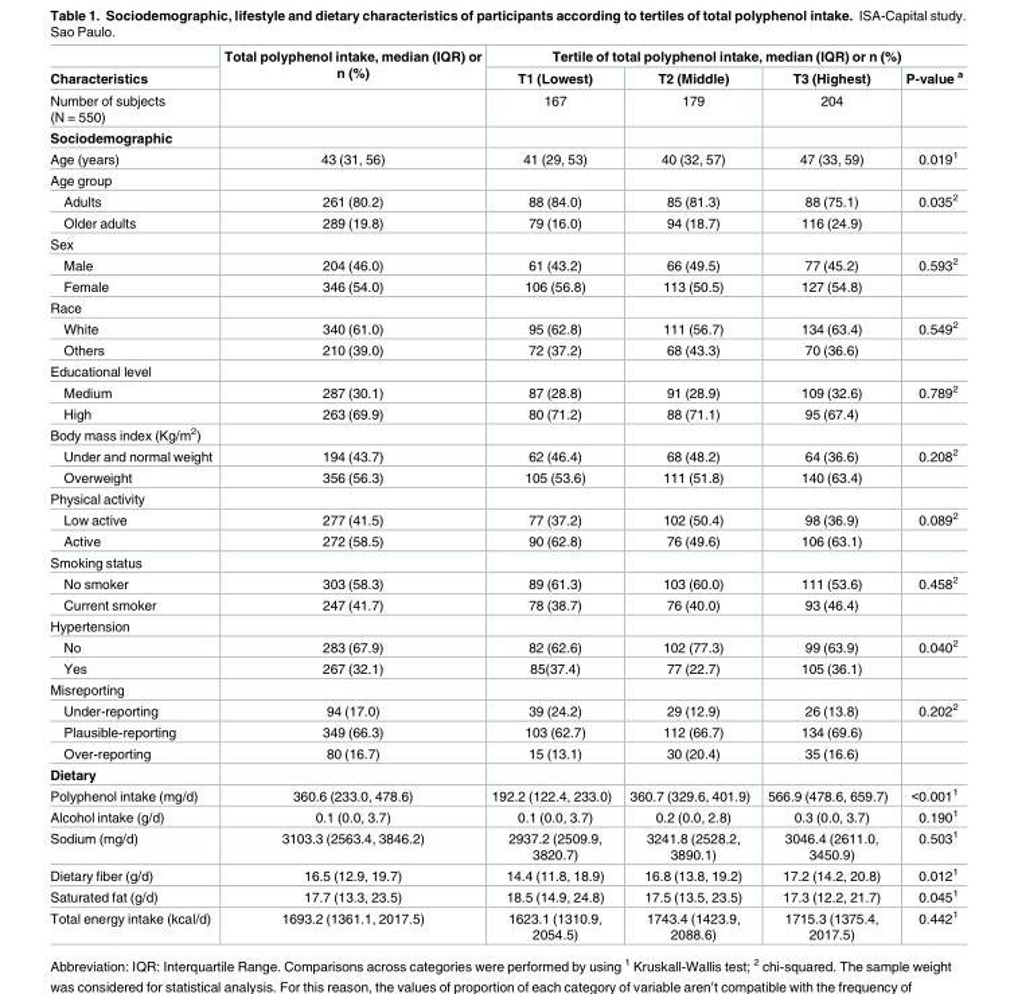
<table><thead><tr><td rowspan="2">Characteristics</td><td rowspan="2">Total polyphenol intake, median (IQR) or n (%)</td><td colspan="4">Tertile of total polyphenol intake, median (IQR) or n (%)</td></tr><tr><td>T1 (Lowest)</td><td>T2 (Middle)</td><td>T3 (Highest)</td><td>P-value <sup>a</sup></td></tr></thead><tbody><tr><td>Number of subjects (N = 550)</td><td></td><td>167</td><td>179</td><td>204</td><td></td></tr><tr><td colspan="6">Sociodemographic</td></tr><tr><td>Age (years)</td><td>43 (31, 56)</td><td>41 (29, 53)</td><td>40 (32, 57)</td><td>47 (33, 59)</td><td>0.019<sup>1</sup></td></tr><tr><td colspan="6">Age group</td></tr><tr><td>Adults</td><td>261 (80.2)</td><td>88 (84.0)</td><td>85 (81.3)</td><td>88 (75.1)</td><td>0.035<sup>2</sup></td></tr><tr><td>Older adults</td><td>289 (19.8)</td><td>79 (16.0)</td><td>94 (18.7)</td><td>116 (24.9)</td><td></td></tr><tr><td colspan="6">Sex</td></tr><tr><td>Male</td><td>204 (46.0)</td><td>61 (43.2)</td><td>66 (49.5)</td><td>77 (45.2)</td><td>0.593<sup>2</sup></td></tr><tr><td>Female</td><td>346 (54.0)</td><td>106 (56.8)</td><td>113 (50.5)</td><td>127 (54.8)</td><td></td></tr><tr><td colspan="6">Race</td></tr><tr><td>White</td><td>340 (61.0)</td><td>95 (62.8)</td><td>111 (56.7)</td><td>134 (63.4)</td><td>0.549<sup>2</sup></td></tr><tr><td>Others</td><td>210 (39.0)</td><td>72 (37.2)</td><td>68 (43.3)</td><td>70 (36.6)</td><td></td></tr><tr><td colspan="6">Educational level</td></tr><tr><td>Medium</td><td>287 (30.1)</td><td>87 (28.8)</td><td>91 (28.9)</td><td>109 (32.6)</td><td>0.789<sup>2</sup></td></tr><tr><td>High</td><td>263 (69.9)</td><td>80 (71.2)</td><td>88 (71.1)</td><td>95 (67.4)</td><td></td></tr><tr><td colspan="6">Body mass index (Kg/m<sup>2</sup>)</td></tr><tr><td>Under and normal weight</td><td>194 (43.7)</td><td>62 (46.4)</td><td>68 (48.2)</td><td>64 (36.6)</td><td>0.208<sup>2</sup></td></tr><tr><td>Overweight</td><td>356 (56.3)</td><td>105 (53.6)</td><td>111 (51.8)</td><td>140 (63.4)</td><td></td></tr><tr><td colspan="6">Physical activity</td></tr><tr><td>Low active</td><td>277 (41.5)</td><td>77 (37.2)</td><td>102 (50.4)</td><td>98 (36.9)</td><td>0.089<sup>2</sup></td></tr><tr><td>Active</td><td>272 (58.5)</td><td>90 (62.8)</td><td>76 (49.6)</td><td>106 (63.1)</td><td></td></tr><tr><td colspan="6">Smoking status</td></tr><tr><td>No smoker</td><td>303 (58.3)</td><td>89 (61.3)</td><td>103 (60.0)</td><td>111 (53.6)</td><td>0.458<sup>2</sup></td></tr><tr><td>Current smoker</td><td>247 (41.7)</td><td>78 (38.7)</td><td>76 (40.0)</td><td>93 (46.4)</td><td></td></tr><tr><td colspan="6">Hypertension</td></tr><tr><td>No</td><td>283 (67.9)</td><td>82 (62.6)</td><td>102 (77.3)</td><td>99 (63.9)</td><td>0.040<sup>2</sup></td></tr><tr><td>Yes</td><td>267 (32.1)</td><td>85(37.4)</td><td>77 (22.7)</td><td>105 (36.1)</td><td></td></tr><tr><td colspan="6">Misreporting</td></tr><tr><td>Under-reporting</td><td>94 (17.0)</td><td>39 (24.2)</td><td>29 (12.9)</td><td>26 (13.8)</td><td>0.202<sup>2</sup></td></tr><tr><td>Plausible-reporting</td><td>349 (66.3)</td><td>103 (62.7)</td><td>112 (66.7)</td><td>134 (69.6)</td><td></td></tr><tr><td>Over-reporting</td><td>80 (16.7)</td><td>15 (13.1)</td><td>30 (20.4)</td><td>35 (16.6)</td><td></td></tr><tr><td colspan="6">Dietary</td></tr><tr><td>Polyphenol intake (mg/d)</td><td>360.6 (233.0, 478.6)</td><td>192.2 (122.4, 233.0)</td><td>360.7 (329.6, 401.9)</td><td>566.9 (478.6, 659.7)</td><td>&lt;0.001<sup>1</sup></td></tr><tr><td>Alcohol intake (g/d)</td><td>0.1 (0.0, 3.7)</td><td>0.1 (0.0, 3.7)</td><td>0.2 (0.0, 2.8)</td><td>0.3 (0.0, 3.7)</td><td>0.190<sup>1</sup></td></tr><tr><td>Sodium (mg/d)</td><td>3103.3 (2563.4, 3846.2)</td><td>2937.2 (2509.9, 3820.7)</td><td>3241.8 (2528.2, 3890.1)</td><td>3046.4 (2611.0, 3450.9)</td><td>0.503<sup>1</sup></td></tr><tr><td>Dietary fiber (g/d)</td><td>16.5 (12.9, 19.7)</td><td>14.4 (11.8, 18.9)</td><td>16.8 (13.8, 19.2)</td><td>17.2 (14.2, 20.8)</td><td>0.012<sup>1</sup></td></tr><tr><td>Saturated fat (g/d)</td><td>17.7 (13.3, 23.5)</td><td>18.5 (14.9, 24.8)</td><td>17.5 (13.5, 23.5)</td><td>17.3 (12.2, 21.7)</td><td>0.045<sup>1</sup></td></tr><tr><td>Total energy intake (kcal/d)</td><td>1693.2 (1361.1, 2017.5)</td><td>1623.1 (1310.9, 2054.5)</td><td>1743.4 (1423.9, 2088.6)</td><td>1715.3 (1375.4, 2017.5)</td><td>0.442<sup>1</sup></td></tr></tbody></table>